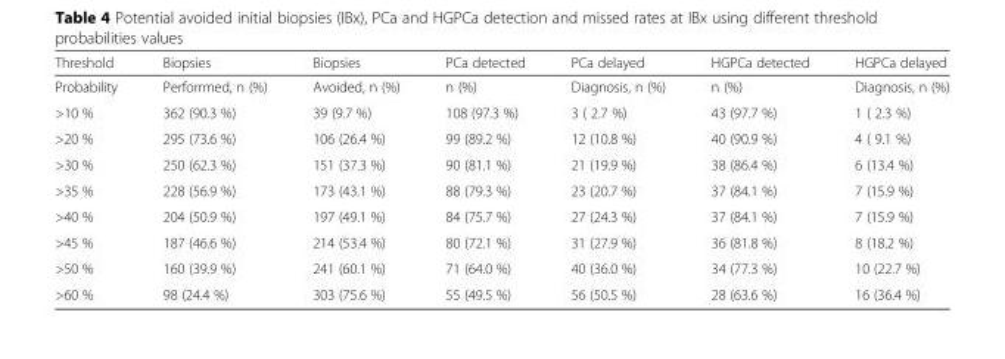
<table><thead><tr><td>Threshold</td><td>Biopsies</td><td>Biopsies</td><td>PCa detected</td><td>PCa delayed</td><td>HGPCa detected</td><td>HGPCa delayed</td></tr></thead><tbody><tr><td>Probability</td><td>Perforrmed, n (%)</td><td>Avoided, n (%)</td><td>n (%)</td><td>Diagnosis, n (%)</td><td>n (%)</td><td>Diagnosis, n (%)</td></tr><tr><td>&gt;10 %</td><td>362 (90.3 %)</td><td>39 (9.7 %)</td><td>108 (97.3 %)</td><td>3 ( 2.7 %)</td><td>43 (97.7 %)</td><td>1 ( 2.3 %)</td></tr><tr><td>&gt;20 %</td><td>295 (73.6 %)</td><td>106 (26.4 %)</td><td>99 (89.2 %)</td><td>12 (10.8 %)</td><td>40 (90.9 %)</td><td>4 ( 9.1 %)</td></tr><tr><td>&gt;30 %</td><td>250 (62.3 %)</td><td>151 (37.3 %)</td><td>90 (81.1 %)</td><td>21 (19.9 %)</td><td>38 (86.4 %)</td><td>6 (13.4 %)</td></tr><tr><td>&gt;35 %</td><td>228 (56.9 %)</td><td>173 (43.1 %)</td><td>88 (79.3 %)</td><td>23 (20.7 %)</td><td>37 (84.1 %)</td><td>7 (15.9 %)</td></tr><tr><td>&gt;40 %</td><td>204 (50.9 %)</td><td>197 (49.1 %)</td><td>84 (75.7 %)</td><td>27 (24.3 %)</td><td>37 (84.1 %)</td><td>7 (15.9 %)</td></tr><tr><td>&gt;45 %</td><td>187 (46.6 %)</td><td>214 (53.4 %)</td><td>80 (72.1 %)</td><td>31 (27.9 %)</td><td>36 (81.8 %)</td><td>8 (18.2 %)</td></tr><tr><td>&gt;50 %</td><td>160 (39.9 %)</td><td>241 (60.1 %)</td><td>71 (64.0 %)</td><td>40 (36.0 %)</td><td>34 (77.3 %)</td><td>10 (22.7 %)</td></tr><tr><td>&gt;60 %</td><td>98 (24.4 %)</td><td>303 (75.6 %)</td><td>55 (49.5 %)</td><td>56 (50.5 %)</td><td>28 (63.6 %)</td><td>16 (36.4 %)</td></tr></tbody></table>